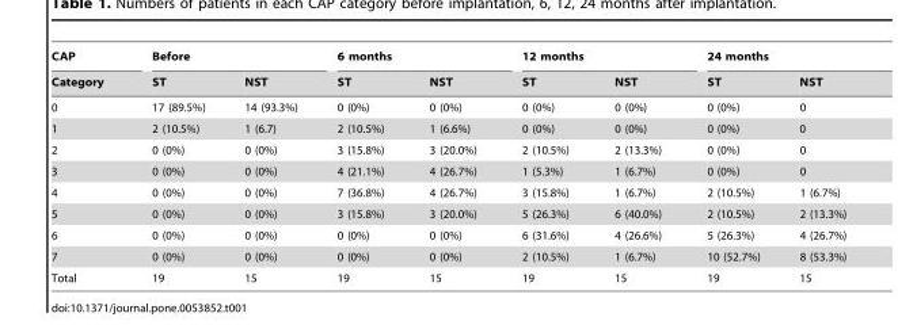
<table><thead><tr><td rowspan="2">CAP Category</td><td colspan="2">Before</td><td colspan="2">6 months</td><td colspan="2">12 months</td><td colspan="2">24 months</td></tr><tr><td>ST</td><td>NST</td><td>ST</td><td>NST</td><td>ST</td><td>NST</td><td>ST</td><td>NST</td></tr></thead><tbody><tr><td>0</td><td>17 (89.5%)</td><td>14 (93.3%)</td><td>0 (0%)</td><td>0 (0%)</td><td>0 (0%)</td><td>0 (0%)</td><td>0 (0%)</td><td>0</td></tr><tr><td>1</td><td>2 (10.5%)</td><td>1 (6.7)</td><td>2 (10.5%)</td><td>1 (6.6%)</td><td>0 (0%)</td><td>0 (0%)</td><td>0 (0%)</td><td>0</td></tr><tr><td>2</td><td>0 (0%)</td><td>0 (0%)</td><td>3 (15.8%)</td><td>3 (20.0%)</td><td>2 (10.5%)</td><td>2 (13.3%)</td><td>0 (0%)</td><td>0</td></tr><tr><td>3</td><td>0 (0%)</td><td>0 (0%)</td><td>4 (21.1%)</td><td>4 (26.7%)</td><td>1 (5.3%)</td><td>1 (6.7%)</td><td>0 (0%)</td><td>0</td></tr><tr><td>4</td><td>0 (0%)</td><td>0 (0%)</td><td>7 (36.8%)</td><td>4 (26.7%)</td><td>3 (15.8%)</td><td>1 (6.7%)</td><td>2 (10.5%)</td><td>1 (6.7%)</td></tr><tr><td>5</td><td>0 (0%)</td><td>0 (0%)</td><td>3 (15.8%)</td><td>3 (20.0%)</td><td>5 (26.3%)</td><td>6 (40.0%)</td><td>2 (10.5%)</td><td>2 (13.3%)</td></tr><tr><td>6</td><td>0 (0%)</td><td>0 (0%)</td><td>0 (0%)</td><td>0 (0%)</td><td>6 (31.6%)</td><td>4 (26.6%)</td><td>5 (26.3%)</td><td>4 (26.7%)</td></tr><tr><td>7</td><td>0 (0%)</td><td>0 (0%)</td><td>0 (0%)</td><td>0 (0%)</td><td>2 (10.5%)</td><td>1 (6.7%)</td><td>10 (52.7%)</td><td>8 (53.3%)</td></tr><tr><td>Total</td><td>19</td><td>15</td><td>19</td><td>15</td><td>19</td><td>15</td><td>19</td><td>15</td></tr></tbody></table>